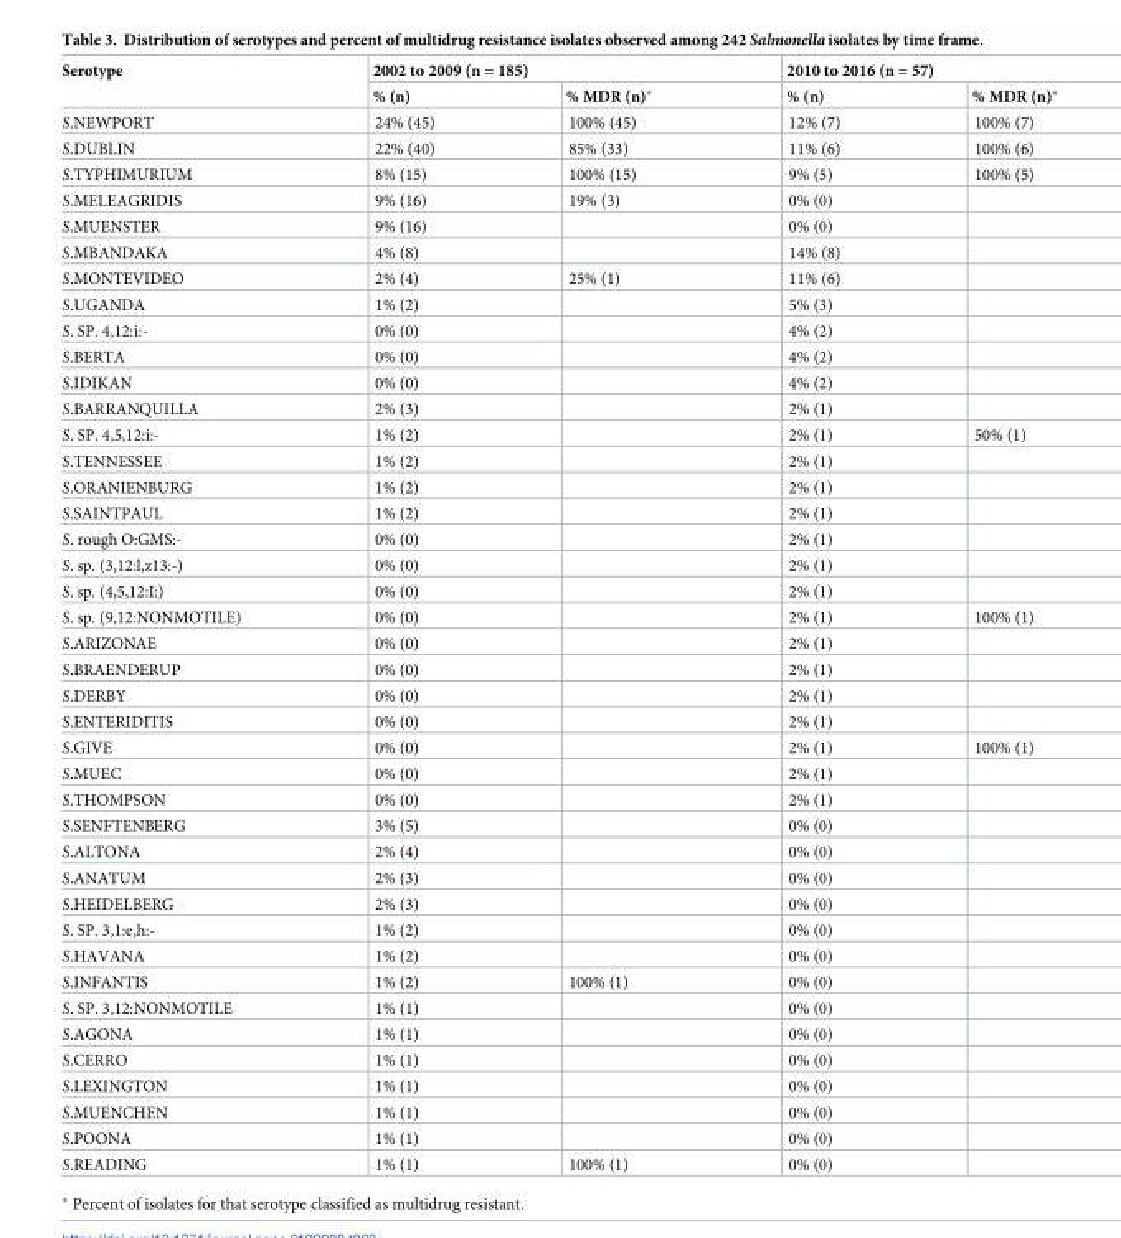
<table><thead><tr><td rowspan="2">Serotype</td><td colspan="2">2002 to 2009 (n = 185)</td><td colspan="2">2010 to 2016 (n = 57)</td></tr><tr><td>% (n)</td><td>% MDR (n)*</td><td>% (n)</td><td>% MDR (n)*</td></tr></thead><tbody><tr><td>S.NEWPORT</td><td>24% (45)</td><td>100% (45)</td><td>12% (7)</td><td>100% (7)</td></tr><tr><td>S.DUBLIN</td><td>22% (40)</td><td>85% (33)</td><td>11% (6)</td><td>100% (6)</td></tr><tr><td>S.TYPHIMURIUM</td><td>8% (15)</td><td>100% (15)</td><td>9% (5)</td><td>100% (5)</td></tr><tr><td>S.MELEAGRIDIS</td><td>9% (16)</td><td>19% (3)</td><td>0% (0)</td><td></td></tr><tr><td>S.MUENSTER</td><td>9% (16)</td><td></td><td>0% (0)</td><td></td></tr><tr><td>S.MBANDAKA</td><td>4% (8)</td><td></td><td>14% (8)</td><td></td></tr><tr><td>S.MONTEVIDEO</td><td>2% (4)</td><td>25% (1)</td><td>11% (6)</td><td></td></tr><tr><td>S.UGANDA</td><td>1% (2)</td><td></td><td>5% (3)</td><td></td></tr><tr><td>S. SP. 4,12:i:-</td><td>0% (0)</td><td></td><td>4% (2)</td><td></td></tr><tr><td>S.BERTA</td><td>0% (0)</td><td></td><td>4% (2)</td><td></td></tr><tr><td>S.IDIKAN</td><td>0% (0)</td><td></td><td>4% (2)</td><td></td></tr><tr><td>S.BARRANQUILLA</td><td>2% (3)</td><td></td><td>2% (1)</td><td></td></tr><tr><td>S. SP. 4,5,12:i:-</td><td>1% (2)</td><td></td><td>2% (1)</td><td>50% (1)</td></tr><tr><td>S.TENNESSEE</td><td>1% (2)</td><td></td><td>2% (1)</td><td></td></tr><tr><td>S.ORANIENBURG</td><td>1% (2)</td><td></td><td>2% (1)</td><td></td></tr><tr><td>S.SAINTPAUL</td><td>1% (2)</td><td></td><td>2% (1)</td><td></td></tr><tr><td>S. rough O:GMS:-</td><td>0% (0)</td><td></td><td>2% (1)</td><td></td></tr><tr><td>S. sp. (3,12:l,z13:-)</td><td>0% (0)</td><td></td><td>2% (1)</td><td></td></tr><tr><td>S. sp. (4,5,12:I:)</td><td>0% (0)</td><td></td><td>2% (1)</td><td></td></tr><tr><td>S. sp. (9,12:NONMOTILE)</td><td>0% (0)</td><td></td><td>2% (1)</td><td>100% (1)</td></tr><tr><td>S.ARIZONAE</td><td>0% (0)</td><td></td><td>2% (1)</td><td></td></tr><tr><td>S.BRAENDERUP</td><td>0% (0)</td><td></td><td>2% (1)</td><td></td></tr><tr><td>S.DERBY</td><td>0% (0)</td><td></td><td>2% (1)</td><td></td></tr><tr><td>S.ENTERIDITIS</td><td>0% (0)</td><td></td><td>2% (1)</td><td></td></tr><tr><td>S.GIVE</td><td>0% (0)</td><td></td><td>2% (1)</td><td>100% (1)</td></tr><tr><td>S.MUEC</td><td>0% (0)</td><td></td><td>2% (1)</td><td></td></tr><tr><td>S.THOMPSON</td><td>0% (0)</td><td></td><td>2% (1)</td><td></td></tr><tr><td>S.SENFTENBERG</td><td>3% (5)</td><td></td><td>0% (0)</td><td></td></tr><tr><td>S.ALTONA</td><td>2% (4)</td><td></td><td>0% (0)</td><td></td></tr><tr><td>S.ANATUM</td><td>2% (3)</td><td></td><td>0% (0)</td><td></td></tr><tr><td>S.HEIDELBERG</td><td>2% (3)</td><td></td><td>0% (0)</td><td></td></tr><tr><td>S. SP. 3,1:e,h:-</td><td>1% (2)</td><td></td><td>0% (0)</td><td></td></tr><tr><td>S.HAVANA</td><td>1% (2)</td><td></td><td>0% (0)</td><td></td></tr><tr><td>S.INFANTIS</td><td>1% (2)</td><td>100% (1)</td><td>0% (0)</td><td></td></tr><tr><td>S. SP. 3,12:NONMOTILE</td><td>1% (1)</td><td></td><td>0% (0)</td><td></td></tr><tr><td>S.AGONA</td><td>1% (1)</td><td></td><td>0% (0)</td><td></td></tr><tr><td>S.CERRO</td><td>1% (1)</td><td></td><td>0% (0)</td><td></td></tr><tr><td>S.LEXINGTON</td><td>1% (1)</td><td></td><td>0% (0)</td><td></td></tr><tr><td>S.MUENCHEN</td><td>1% (1)</td><td></td><td>0% (0)</td><td></td></tr><tr><td>S.POONA</td><td>1% (1)</td><td></td><td>0% (0)</td><td></td></tr><tr><td>S.READING</td><td>1% (1)</td><td>100% (1)</td><td>0% (0)</td><td></td></tr></tbody></table>